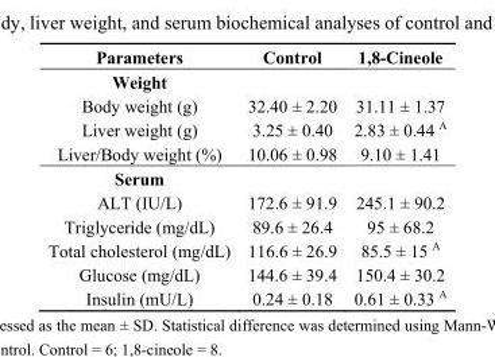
<table><thead><tr><td>Parameters</td><td>Control</td><td>1,8-Cineole</td></tr></thead><tbody><tr><td colspan="3">Weight</td></tr><tr><td>Body weight (g)</td><td>32.40 ± 2.20</td><td>31.11 ± 1.37</td></tr><tr><td>Liver weight (g)</td><td>3.25 ± 0.40</td><td>2.83 ± 0.44 <sup>A</sup></td></tr><tr><td>Liver/Body weight (%)</td><td>10.06 ± 0.98</td><td>9.10 ± 1.41</td></tr><tr><td colspan="3">Serum</td></tr><tr><td>ALT (IU/L)</td><td>172.6 ± 91.9</td><td>245.1 ± 90.2</td></tr><tr><td>Triglyceride (mg/dL)</td><td>89.6 ± 26.4</td><td>95 ± 68.2</td></tr><tr><td>Total cholesterol (mg/dL)</td><td>116.6 ± 26.9</td><td>85.5 ± 15 <sup>A</sup></td></tr><tr><td>Glucose (mg/dL)</td><td>144.6 ± 39.4</td><td>150.4 ± 30.2</td></tr><tr><td>Insulin (mU/L)</td><td>0.24 ± 0.18</td><td>0.61 ± 0.33 <sup>A</sup></td></tr></tbody></table>